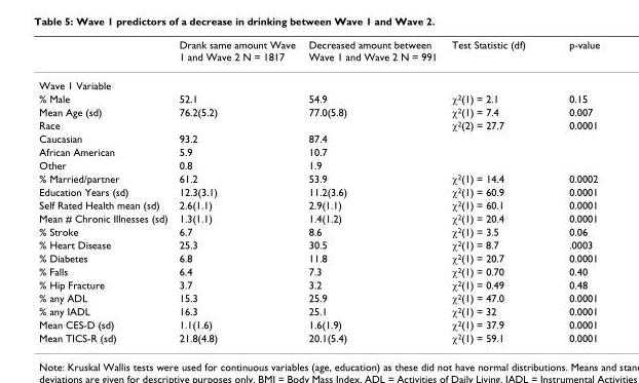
<table><thead><tr><td></td><td>Drank same amount Wave 1 and Wave 2 N = 1817</td><td>Decreased amount between Wave 1 and Wave 2 N = 991</td><td>Test Statistic (df)</td><td>p-value</td></tr></thead><tbody><tr><td colspan="5">Wave 1 Variable</td></tr><tr><td>% Male</td><td>52.1</td><td>54.9</td><td>χ<sup>2</sup>(1) = 2.1</td><td>0.15</td></tr><tr><td>Mean Age (sd)</td><td>76.2(5.2)</td><td>77.0(5.8)</td><td>χ<sup>2</sup>(1) = 7.4</td><td>0.007</td></tr><tr><td>Race</td><td></td><td></td><td>χ<sup>2</sup>(2) = 27.7</td><td>0.0001</td></tr><tr><td>Caucasian</td><td>93.2</td><td>87.4</td><td></td><td></td></tr><tr><td>African American</td><td>5.9</td><td>10.7</td><td></td><td></td></tr><tr><td>Other</td><td>0.8</td><td>1.9</td><td></td><td></td></tr><tr><td>% Married/partner</td><td>61.2</td><td>53.9</td><td>χ<sup>2</sup>(1) = 14.4</td><td>0.0002</td></tr><tr><td>Education Years (sd)</td><td>12.3(3.1)</td><td>11.2(3.6)</td><td>χ<sup>2</sup>(1) = 60.9</td><td>0.0001</td></tr><tr><td>Self Rated Health mean (sd)</td><td>2.6(1.1)</td><td>2.9(1.1)</td><td>χ<sup>2</sup>(1) = 60.1</td><td>0.0001</td></tr><tr><td>Mean # Chronic Illnesses (sd)</td><td>1.3(1.1)</td><td>1.4(1.2)</td><td>χ<sup>2</sup>(1) = 20.4</td><td>0.0001</td></tr><tr><td>% Stroke</td><td>6.7</td><td>8.6</td><td>χ<sup>2</sup>(1) = 3.5</td><td>0.06</td></tr><tr><td>% Heart Disease</td><td>25.3</td><td>30.5</td><td>χ<sup>2</sup>(1) = 8.7</td><td>.0003</td></tr><tr><td>% Diabetes</td><td>6.8</td><td>11.8</td><td>χ<sup>2</sup>(1) = 20.7</td><td>0.0001</td></tr><tr><td>% Falls</td><td>6.4</td><td>7.3</td><td>χ<sup>2</sup>(1) = 0.70</td><td>0.40</td></tr><tr><td>% Hip Fracture</td><td>3.7</td><td>3.2</td><td>χ<sup>2</sup>(1) = 0.49</td><td>0.48</td></tr><tr><td>% any ADL</td><td>15.3</td><td>25.9</td><td>χ<sup>2</sup>(1) = 47.0</td><td>0.0001</td></tr><tr><td>% any IADL</td><td>16.3</td><td>25.1</td><td>χ<sup>2</sup>(1) = 32</td><td>0.0001</td></tr><tr><td>Mean CES-D (sd)</td><td>1.1(1.6)</td><td>1.6(1.9)</td><td>χ<sup>2</sup>(1) = 37.9</td><td>0.0001</td></tr><tr><td>Mean TICS-R (sd)</td><td>21.8(4.8)</td><td>20.1(5.4)</td><td>χ<sup>2</sup>(1) = 59.1</td><td>0.0001</td></tr></tbody></table>